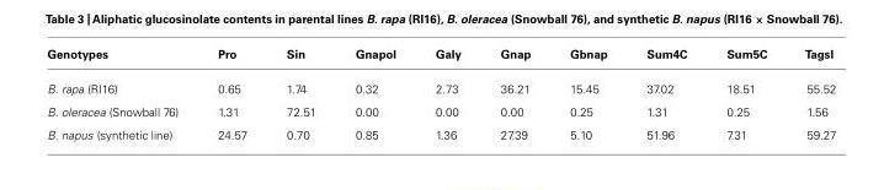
<table><thead><tr><td>Genotypes</td><td>Pro</td><td>Sin</td><td>Gnapol</td><td>Galy</td><td>Gnap</td><td>Gbnap</td><td>Sum4C</td><td>Sum5C</td><td>Tagsl</td></tr></thead><tbody><tr><td>B. rapa (RI16)</td><td>0.65</td><td>1.74</td><td>0.32</td><td>2.73</td><td>36.21</td><td>15.45</td><td>37.02</td><td>18.51</td><td>55.52</td></tr><tr><td>B. oleracea (Snowball 76)</td><td>1.31</td><td>72.51</td><td>0.00</td><td>0.00</td><td>0.00</td><td>0.25</td><td>1.31</td><td>0.25</td><td>1.56</td></tr><tr><td>B. napus (synthetic line)</td><td>24.57</td><td>0.70</td><td>0.85</td><td>1.36</td><td>27.39</td><td>5.10</td><td>51.96</td><td>7.31</td><td>59.27</td></tr></tbody></table>